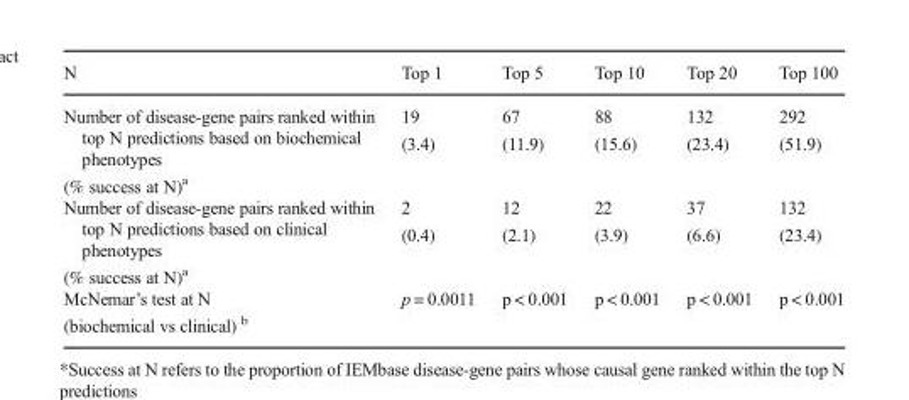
<table><thead><tr><td>N</td><td>Top 1</td><td>Top 5</td><td>Top 10</td><td>Top 20</td><td>Top 100</td></tr></thead><tbody><tr><td>Number of disease-gene pairs ranked within top N predictions based on biochemical phenotypes (% success at N)<sup>a</sup></td><td>19 (3.4)</td><td>67 (11.9)</td><td>88 (15.6)</td><td>132 (23.4)</td><td>292 (51.9)</td></tr><tr><td>Number of disease-gene pairs ranked within top N predictions based on clinical phenotypes (% success at N)<sup>a</sup></td><td>2 (0.4)</td><td>12 (2.1)</td><td>22 (3.9)</td><td>37 (6.6)</td><td>132 (23.4)</td></tr><tr><td>McNemar’s test at N (biochemical vs clinical) <sup>b</sup></td><td>p = 0.0011</td><td>p &lt; 0.001</td><td>p &lt; 0.001</td><td>p &lt; 0.001</td><td>p &lt; 0.001</td></tr></tbody></table>